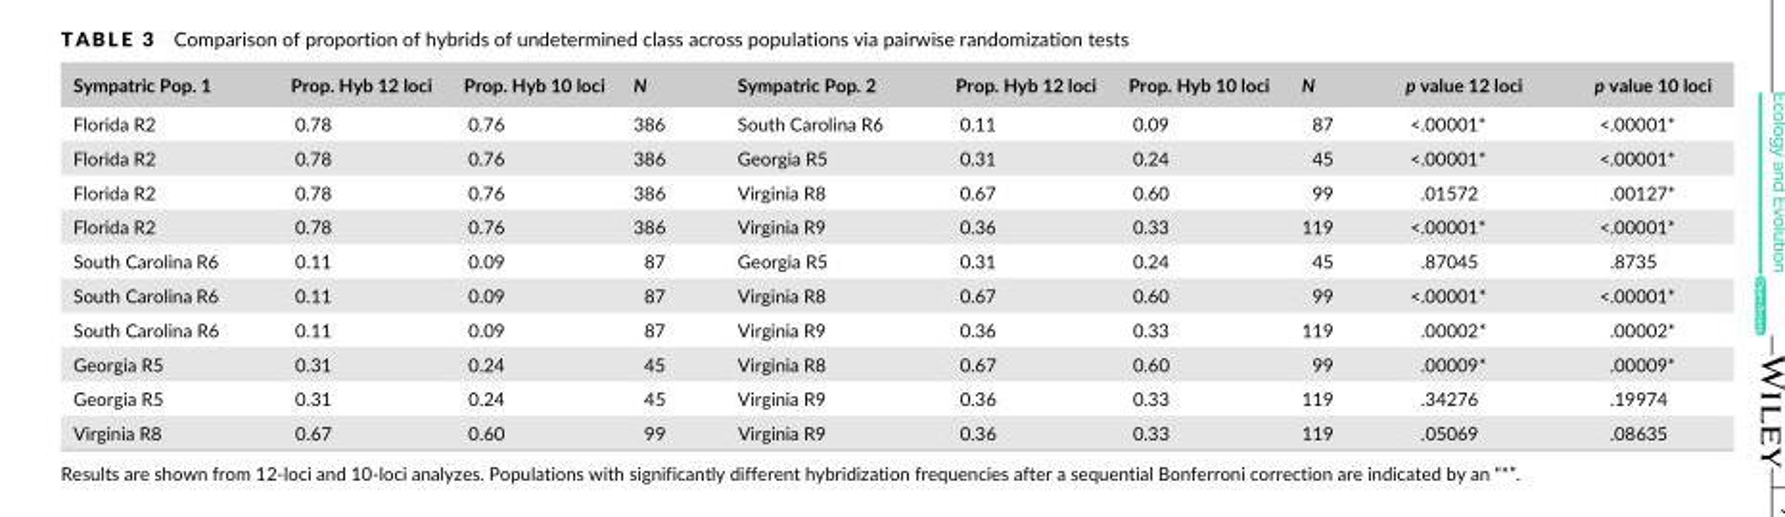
<table><thead><tr><td>Sympatric Pop. 1</td><td>Prop. Hyb 12 loci</td><td>Prop. Hyb 10 loci</td><td>N</td><td>Sympatric Pop. 2</td><td>Prop. Hyb 12 loci</td><td>Prop. Hyb 10 loci</td><td>N</td><td>p value 12 loci</td><td>p value 10 loci</td></tr></thead><tbody><tr><td>Florida R2</td><td>0.78</td><td>0.76</td><td>386</td><td>South Carolina R6</td><td>0.11</td><td>0.09</td><td>87</td><td>&lt;.00001*</td><td>&lt;.00001*</td></tr><tr><td>Florida R2</td><td>0.78</td><td>0.76</td><td>386</td><td>Georgia R5</td><td>0.31</td><td>0.24</td><td>45</td><td>&lt;.00001*</td><td>&lt;.00001*</td></tr><tr><td>Florida R2</td><td>0.78</td><td>0.76</td><td>386</td><td>Virginia R8</td><td>0.67</td><td>0.60</td><td>99</td><td>.01572</td><td>.00127*</td></tr><tr><td>Florida R2</td><td>0.78</td><td>0.76</td><td>386</td><td>Virginia R9</td><td>0.36</td><td>0.33</td><td>119</td><td>&lt;.00001*</td><td>&lt;.00001*</td></tr><tr><td>South Carolina R6</td><td>0.11</td><td>0.09</td><td>87</td><td>Georgia R5</td><td>0.31</td><td>0.24</td><td>45</td><td>.87045</td><td>.8735</td></tr><tr><td>South Carolina R6</td><td>0.11</td><td>0.09</td><td>87</td><td>Virginia R8</td><td>0.67</td><td>0.60</td><td>99</td><td>&lt;.00001*</td><td>&lt;.00001*</td></tr><tr><td>South Carolina R6</td><td>0.11</td><td>0.09</td><td>87</td><td>Virginia R9</td><td>0.36</td><td>0.33</td><td>119</td><td>.00002*</td><td>.00002*</td></tr><tr><td>Georgia R5</td><td>0.31</td><td>0.24</td><td>45</td><td>Virginia R8</td><td>0.67</td><td>0.60</td><td>99</td><td>.00009*</td><td>.00009*</td></tr><tr><td>Georgia R5</td><td>0.31</td><td>0.24</td><td>45</td><td>Virginia R9</td><td>0.36</td><td>0.33</td><td>119</td><td>.34276</td><td>.19974</td></tr><tr><td>Virginia R8</td><td>0.67</td><td>0.60</td><td>99</td><td>Virginia R9</td><td>0.36</td><td>0.33</td><td>119</td><td>.05069</td><td>.08635</td></tr></tbody></table>